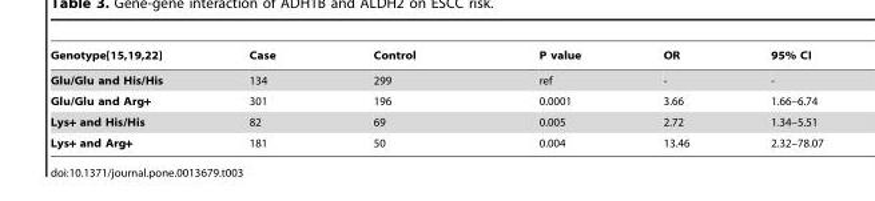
<table><thead><tr><td>Genotype[15,19,22]</td><td>Case</td><td>Control</td><td>P value</td><td>OR</td><td>95% CI</td></tr></thead><tbody><tr><td>Glu/Glu and His/His</td><td>134</td><td>299</td><td>ref</td><td>-</td><td>-</td></tr><tr><td>Glu/Glu and Arg+</td><td>301</td><td>196</td><td>0.0001</td><td>3.66</td><td>1.66–6.74</td></tr><tr><td>Lys+ and His/His</td><td>82</td><td>69</td><td>0.005</td><td>2.72</td><td>1.34–5.51</td></tr><tr><td>Lys+ and Arg+</td><td>181</td><td>50</td><td>0.004</td><td>13.46</td><td>2.32–78.07</td></tr></tbody></table>